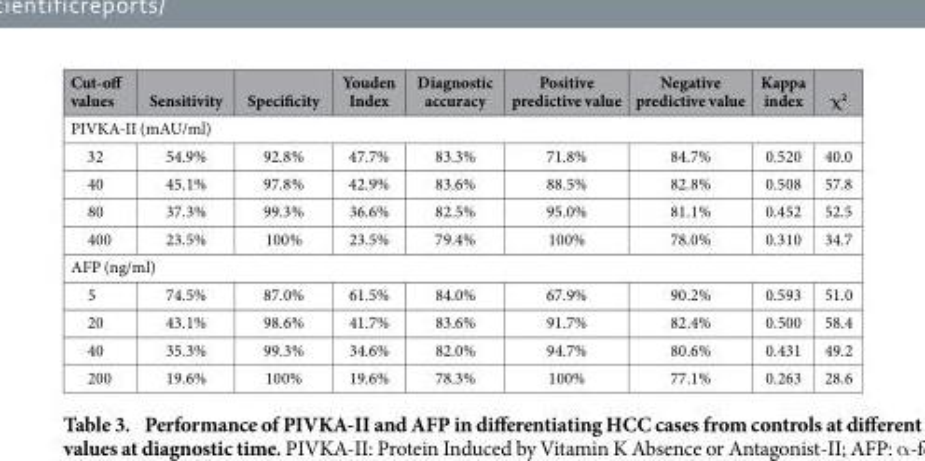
<table><thead><tr><td>Cut-off values</td><td>Sensitivity</td><td>Specificity</td><td>Youden Index</td><td>Diagnostic accuracy</td><td>Positive predictive value</td><td>Negative predictive value</td><td>Kappa index</td><td>χ<sup>2</sup></td></tr></thead><tbody><tr><td colspan="9">PIVKA-II (mAU/ml)</td></tr><tr><td>32</td><td>54.9%</td><td>92.8%</td><td>47.7%</td><td>83.3%</td><td>71.8%</td><td>84.7%</td><td>0.520</td><td>40.0</td></tr><tr><td>40</td><td>45.1%</td><td>97.8%</td><td>42.9%</td><td>83.6%</td><td>88.5%</td><td>82.8%</td><td>0.508</td><td>57.8</td></tr><tr><td>80</td><td>37.3%</td><td>99.3%</td><td>36.6%</td><td>82.5%</td><td>95.0%</td><td>81.1%</td><td>0.452</td><td>52.5</td></tr><tr><td>400</td><td>23.5%</td><td>100%</td><td>23.5%</td><td>79.4%</td><td>100%</td><td>78.0%</td><td>0.310</td><td>34.7</td></tr><tr><td colspan="9">AFP (ng/ml)</td></tr><tr><td>5</td><td>74.5%</td><td>87.0%</td><td>61.5%</td><td>84.0%</td><td>67.9%</td><td>90.2%</td><td>0.593</td><td>51.0</td></tr><tr><td>20</td><td>43.1%</td><td>98.6%</td><td>41.7%</td><td>83.6%</td><td>91.7%</td><td>82.4%</td><td>0.500</td><td>58.4</td></tr><tr><td>40</td><td>35.3%</td><td>99.3%</td><td>34.6%</td><td>82.0%</td><td>94.7%</td><td>80.6%</td><td>0.431</td><td>49.2</td></tr><tr><td>200</td><td>19.6%</td><td>100%</td><td>19.6%</td><td>78.3%</td><td>100%</td><td>77.1%</td><td>0.263</td><td>28.6</td></tr></tbody></table>